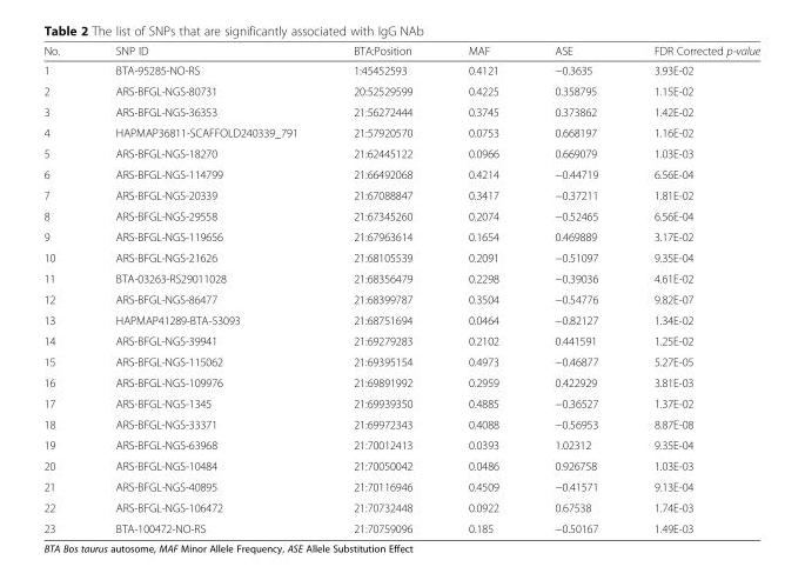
<table><thead><tr><td>No.</td><td>SNP ID</td><td>BTA:Position</td><td>MAF</td><td>ASE</td><td>FDR Corrected p-value</td></tr></thead><tbody><tr><td>1</td><td>BTA-95285-NO-RS</td><td>1:45452593</td><td>0.4121</td><td>−0.3635</td><td>3.93E-02</td></tr><tr><td>2</td><td>ARS-BFGL-NGS-80731</td><td>20:52529599</td><td>0.4225</td><td>0.358795</td><td>1.15E-02</td></tr><tr><td>3</td><td>ARS-BFGL-NGS-36353</td><td>21:56272444</td><td>0.3745</td><td>0.373862</td><td>1.42E-02</td></tr><tr><td>4</td><td>HAPMAP36811-SCAFFOLD240339_791</td><td>21:57920570</td><td>0.0753</td><td>0.668197</td><td>1.16E-02</td></tr><tr><td>5</td><td>ARS-BFGL-NGS-18270</td><td>21:62445122</td><td>0.0966</td><td>0.669079</td><td>1.03E-03</td></tr><tr><td>6</td><td>ARS-BFGL-NGS-114799</td><td>21:66492068</td><td>0.4214</td><td>−0.44719</td><td>6.56E-04</td></tr><tr><td>7</td><td>ARS-BFGL-NGS-20339</td><td>21:67088847</td><td>0.3417</td><td>−0.37211</td><td>1.81E-02</td></tr><tr><td>8</td><td>ARS-BFGL-NGS-29558</td><td>21:67345260</td><td>0.2074</td><td>−0.52465</td><td>6.56E-04</td></tr><tr><td>9</td><td>ARS-BFGL-NGS-119656</td><td>21:67963614</td><td>0.1654</td><td>0.469889</td><td>3.17E-02</td></tr><tr><td>10</td><td>ARS-BFGL-NGS-21626</td><td>21:68105539</td><td>0.2091</td><td>−0.51097</td><td>9.35E-04</td></tr><tr><td>11</td><td>BTA-03263-RS29011028</td><td>21:68356479</td><td>0.2298</td><td>−0.39036</td><td>4.61E-02</td></tr><tr><td>12</td><td>ARS-BFGL-NGS-86477</td><td>21:68399787</td><td>0.3504</td><td>−0.54776</td><td>9.82E-07</td></tr><tr><td>13</td><td>HAPMAP41289-BTA-53093</td><td>21:68751694</td><td>0.0464</td><td>−0.82127</td><td>1.34E-02</td></tr><tr><td>14</td><td>ARS-BFGL-NGS-39941</td><td>21:69279283</td><td>0.2102</td><td>0.441591</td><td>1.25E-02</td></tr><tr><td>15</td><td>ARS-BFGL-NGS-115062</td><td>21:69395154</td><td>0.4973</td><td>−0.46877</td><td>5.27E-05</td></tr><tr><td>16</td><td>ARS-BFGL-NGS-109976</td><td>21:69891992</td><td>0.2959</td><td>0.422929</td><td>3.81E-03</td></tr><tr><td>17</td><td>ARS-BFGL-NGS-1345</td><td>21:69939350</td><td>0.4885</td><td>−0.36527</td><td>1.37E-02</td></tr><tr><td>18</td><td>ARS-BFGL-NGS-33371</td><td>21:69972343</td><td>0.4088</td><td>−0.56953</td><td>8.87E-08</td></tr><tr><td>19</td><td>ARS-BFGL-NGS-63968</td><td>21:70012413</td><td>0.0393</td><td>1.02312</td><td>9.35E-04</td></tr><tr><td>20</td><td>ARS-BFGL-NGS-10484</td><td>21:70050042</td><td>0.0486</td><td>0.926758</td><td>1.03E-03</td></tr><tr><td>21</td><td>ARS-BFGL-NGS-40895</td><td>21:70116946</td><td>0.4509</td><td>−0.41571</td><td>9.13E-04</td></tr><tr><td>22</td><td>ARS-BFGL-NGS-106472</td><td>21:70732448</td><td>0.0922</td><td>0.67538</td><td>1.74E-03</td></tr><tr><td>23</td><td>BTA-100472-NO-RS</td><td>21:70759096</td><td>0.185</td><td>−0.50167</td><td>1.49E-03</td></tr></tbody></table>